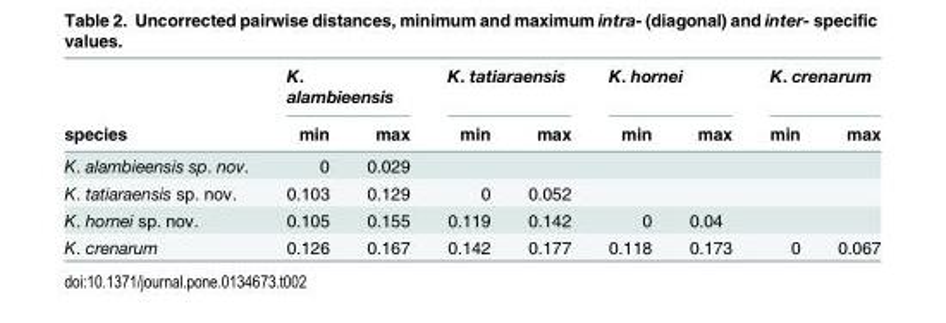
<table><thead><tr><td rowspan="2">species</td><td colspan="2">K. alambieensis</td><td colspan="2">K. tatiaraensis</td><td colspan="2">K. hornei</td><td colspan="2">K. crenarum</td></tr><tr><td>min</td><td>max</td><td>min</td><td>max</td><td>min</td><td>max</td><td>min</td><td>max</td></tr></thead><tbody><tr><td>K. alambieensis sp. nov.</td><td>0</td><td>0.029</td><td></td><td></td><td></td><td></td><td></td><td></td></tr><tr><td>K. tatiaraensis sp. nov.</td><td>0.103</td><td>0.129</td><td>0</td><td>0.052</td><td></td><td></td><td></td><td></td></tr><tr><td>K. hornei sp. nov.</td><td>0.105</td><td>0.155</td><td>0.119</td><td>0.142</td><td>0</td><td>0.04</td><td></td><td></td></tr><tr><td>K. crenarum</td><td>0.126</td><td>0.167</td><td>0.142</td><td>0.177</td><td>0.118</td><td>0.173</td><td>0</td><td>0.067</td></tr></tbody></table>